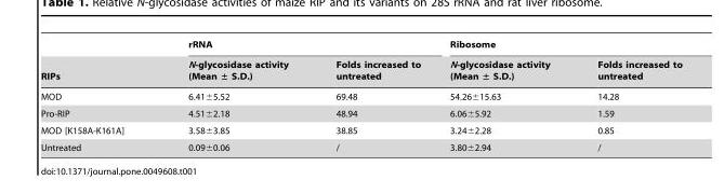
<table><thead><tr><td rowspan="2">RIPs</td><td colspan="2">rRNA</td><td colspan="2">Ribosome</td></tr><tr><td>N-glycosidase activity (Mean ± S.D.)</td><td>Folds increased to untreated</td><td>N-glycosidase activity (Mean ± S.D.)</td><td>Folds increased to untreated</td></tr></thead><tbody><tr><td>MOD</td><td>6.41±5.52</td><td>69.48</td><td>54.26±15.63</td><td>14.28</td></tr><tr><td>Pro-RIP</td><td>4.51±2.18</td><td>48.94</td><td>6.06±5.92</td><td>1.59</td></tr><tr><td>MOD [K158A-K161A]</td><td>3.58±3.85</td><td>38.85</td><td>3.24±2.28</td><td>0.85</td></tr><tr><td>Untreated</td><td>0.09±0.06</td><td>/</td><td>3.80±2.94</td><td>/</td></tr></tbody></table>